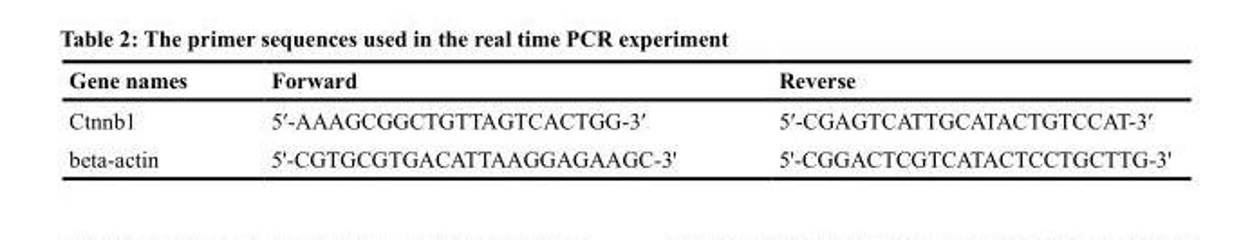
<table><thead><tr><td>Gene names</td><td>Forward</td><td>Reverse</td></tr></thead><tbody><tr><td>Ctnnb1</td><td>5′-AAAGCGGCTGTTAGTCACTGG-3′</td><td>5′-CGAGTCATTGCATACTGTCCAT-3′</td></tr><tr><td>beta-actin</td><td>5&#x27;-CGTGCGTGACATTAAGGAGAAGC-3&#x27;</td><td>5&#x27;-CGGACTCGTCATACTCCTGCTTG-3&#x27;</td></tr></tbody></table>